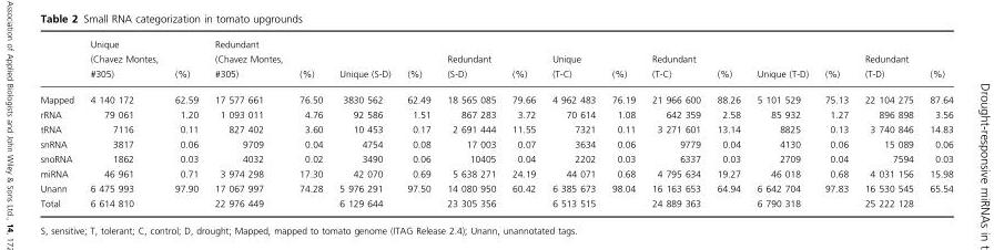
<table><thead><tr><td></td><td>Unique (Chavez Montes, #305)</td><td>(%)</td><td>Redundant (Chavez Montes, #305)</td><td>(%)</td><td>Unique (S-D)</td><td>(%)</td><td>Redundant (S-D)</td><td>(%)</td><td>Unique (T-C)</td><td>(%)</td><td>Redundant (T-C)</td><td>(%)</td><td>Unique (T-D)</td><td>(%)</td><td>Redundant (T-D)</td><td>(%)</td></tr></thead><tbody><tr><td>Mapped</td><td>4 140 172</td><td>62.59</td><td>17 577 661</td><td>76.50</td><td>3830 562</td><td>62.49</td><td>18 565 085</td><td>79.66</td><td>4 962 483</td><td>76.19</td><td>21 966 600</td><td>88.26</td><td>5 101 529</td><td>75.13</td><td>22 104 275</td><td>87.64</td></tr><tr><td>rRNA</td><td>79 061</td><td>1.20</td><td>1 093 011</td><td>4.76</td><td>92 586</td><td>1.51</td><td>867 283</td><td>3.72</td><td>70 614</td><td>1.08</td><td>642 359</td><td>2.58</td><td>85 932</td><td>1.27</td><td>896 898</td><td>3.56</td></tr><tr><td>tRNA</td><td>7116</td><td>0.11</td><td>827 402</td><td>3.60</td><td>10 453</td><td>0.17</td><td>2 691 444</td><td>11.55</td><td>7321</td><td>0.11</td><td>3 271 601</td><td>13.14</td><td>8825</td><td>0.13</td><td>3 740 846</td><td>14.83</td></tr><tr><td>snRNA</td><td>3817</td><td>0.06</td><td>9709</td><td>0.04</td><td>4754</td><td>0.08</td><td>17 003</td><td>0.07</td><td>3634</td><td>0.06</td><td>9779</td><td>0.04</td><td>4130</td><td>0.06</td><td>15 089</td><td>0.06</td></tr><tr><td>snoRNA</td><td>1862</td><td>0.03</td><td>4032</td><td>0.02</td><td>3490</td><td>0.06</td><td>10405</td><td>0.04</td><td>2202</td><td>0.03</td><td>6337</td><td>0.03</td><td>2709</td><td>0.04</td><td>7594</td><td>0.03</td></tr><tr><td>miRNA</td><td>46 961</td><td>0.71</td><td>3 974 298</td><td>17.30</td><td>42 070</td><td>0.69</td><td>5 638 271</td><td>24.19</td><td>44 071</td><td>0.68</td><td>4 795 634</td><td>19.27</td><td>46 018</td><td>0.68</td><td>4 031 156</td><td>15.98</td></tr><tr><td>Unann</td><td>6 475 993</td><td>97.90</td><td>17 067 997</td><td>74.28</td><td>5 976 291</td><td>97.50</td><td>14 080 950</td><td>60.42</td><td>6 385 673</td><td>98.04</td><td>16 163 653</td><td>64.94</td><td>6 642 704</td><td>97.83</td><td>16 530 545</td><td>65.54</td></tr><tr><td>Total</td><td>6 614 810</td><td></td><td>22 976 449</td><td></td><td>6 129 644</td><td></td><td>23 305 356</td><td></td><td>6 513 515</td><td></td><td>24 889 363</td><td></td><td>6 790 318</td><td></td><td>25 222 128</td><td></td></tr></tbody></table>